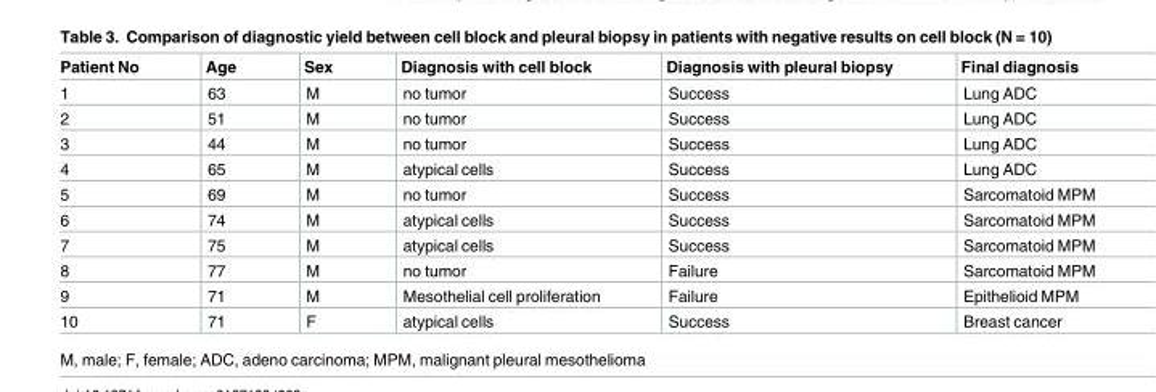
<table><thead><tr><td>Patient No</td><td>Age</td><td>Sex</td><td>Diagnosis with cell block</td><td>Diagnosis with pleural biopsy</td><td>Final diagnosis</td></tr></thead><tbody><tr><td>1</td><td>63</td><td>M</td><td>no tumor</td><td>Success</td><td>Lung ADC</td></tr><tr><td>2</td><td>51</td><td>M</td><td>no tumor</td><td>Success</td><td>Lung ADC</td></tr><tr><td>3</td><td>44</td><td>M</td><td>no tumor</td><td>Success</td><td>Lung ADC</td></tr><tr><td>4</td><td>65</td><td>M</td><td>atypical cells</td><td>Success</td><td>Lung ADC</td></tr><tr><td>5</td><td>69</td><td>M</td><td>no tumor</td><td>Success</td><td>Sarcomatoid MPM</td></tr><tr><td>6</td><td>74</td><td>M</td><td>atypical cells</td><td>Success</td><td>Sarcomatoid MPM</td></tr><tr><td>7</td><td>75</td><td>M</td><td>atypical cells</td><td>Success</td><td>Sarcomatoid MPM</td></tr><tr><td>8</td><td>77</td><td>M</td><td>no tumor</td><td>Failure</td><td>Sarcomatoid MPM</td></tr><tr><td>9</td><td>71</td><td>M</td><td>Mesothelial cell proliferation</td><td>Failure</td><td>Epithelioid MPM</td></tr><tr><td>10</td><td>71</td><td>F</td><td>atypical cells</td><td>Success</td><td>Breast cancer</td></tr></tbody></table>